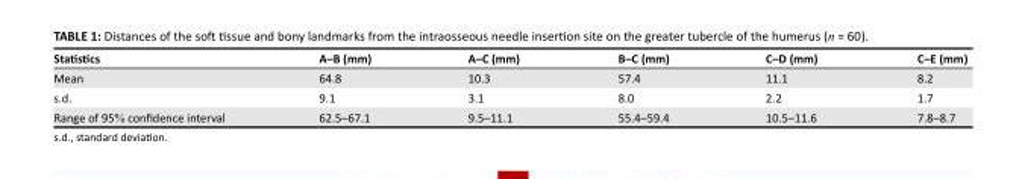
<table><thead><tr><td>Statistics</td><td>A–B (mm)</td><td>A–C (mm)</td><td>B–C (mm)</td><td>C–D (mm)</td><td>C–E (mm)</td></tr></thead><tbody><tr><td>Mean</td><td>64.8</td><td>10.3</td><td>57.4</td><td>11.1</td><td>8.2</td></tr><tr><td>s.d.</td><td>9.1</td><td>3.1</td><td>8.0</td><td>2.2</td><td>1.7</td></tr><tr><td>Range of 95% confidence interval</td><td>62.5–67.1</td><td>9.5–11.1</td><td>55.4–59.4</td><td>10.5–11.6</td><td>7.8–8.7</td></tr></tbody></table>